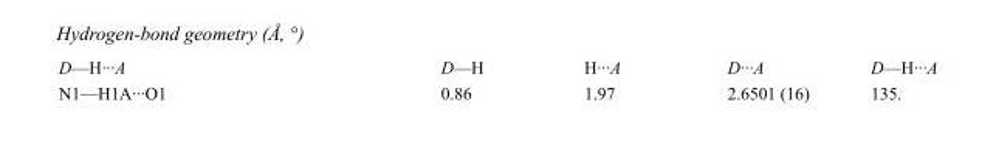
<table><tbody><tr><td>D—H···A</td><td>D—H</td><td>H···A</td><td>D···A</td><td>D—H···A</td></tr><tr><td>N1—H1A···O1</td><td>0.86</td><td>1.97</td><td>2.6501 (16)</td><td>135.</td></tr></tbody></table>